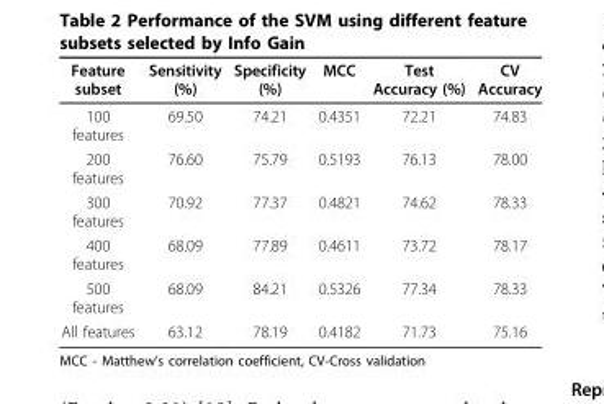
<table><thead><tr><td>Feature subset</td><td>Sensitivity (%)</td><td>Specificity (%)</td><td>MCC</td><td>Test Accuracy (%)</td><td>CV Accuracy</td></tr></thead><tbody><tr><td>100 features</td><td>69.50</td><td>74.21</td><td>0.4351</td><td>72.21</td><td>74.83</td></tr><tr><td>200 features</td><td>76.60</td><td>75.79</td><td>0.5193</td><td>76.13</td><td>78.00</td></tr><tr><td>300 features</td><td>70.92</td><td>77.37</td><td>0.4821</td><td>74.62</td><td>78.33</td></tr><tr><td>400 features</td><td>68.09</td><td>77.89</td><td>0.4611</td><td>73.72</td><td>78.17</td></tr><tr><td>500 features</td><td>68.09</td><td>84.21</td><td>0.5326</td><td>77.34</td><td>78.33</td></tr><tr><td>All features</td><td>63.12</td><td>78.19</td><td>0.4182</td><td>71.73</td><td>75.16</td></tr></tbody></table>